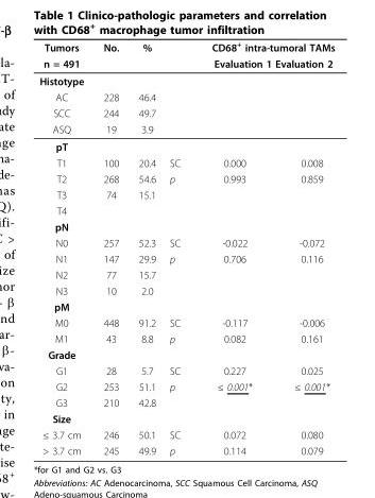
<table><thead><tr><td rowspan="3">Tumors n = 491 Histotype</td><td rowspan="3">No.</td><td rowspan="3">%</td><td rowspan="3"></td><td rowspan="2" colspan="2">CD68+ intra-tumoral TAMs Evaluation 1 Evaluation 2</td></tr><tr></tr><tr><td></td><td></td></tr></thead><tbody><tr><td>AC</td><td>228</td><td>46.4</td><td></td><td></td><td></td></tr><tr><td>SCC</td><td>244</td><td>49.7</td><td></td><td></td><td></td></tr><tr><td>ASQ</td><td>19</td><td>3.9</td><td></td><td></td><td></td></tr><tr><td colspan="6">pT</td></tr><tr><td>T1</td><td>100</td><td>20.4</td><td>SC</td><td>0.000</td><td>0.008</td></tr><tr><td>T2</td><td>268</td><td>54.6</td><td>p</td><td>0.993</td><td>0.859</td></tr><tr><td>T3</td><td>74</td><td>15.1</td><td></td><td></td><td></td></tr><tr><td colspan="6">T4</td></tr><tr><td colspan="6">pN</td></tr><tr><td>N0</td><td>257</td><td>52.3</td><td>SC</td><td>-0.022</td><td>-0.072</td></tr><tr><td>N1</td><td>147</td><td>29.9</td><td>p</td><td>0.706</td><td>0.116</td></tr><tr><td>N2</td><td>77</td><td>15.7</td><td></td><td></td><td></td></tr><tr><td>N3</td><td>10</td><td>2.0</td><td></td><td></td><td></td></tr><tr><td colspan="6">pM</td></tr><tr><td>M0</td><td>448</td><td>91.2</td><td>SC</td><td>-0.117</td><td>-0.006</td></tr><tr><td>M1</td><td>43</td><td>8.8</td><td>p</td><td>0.082</td><td>0.161</td></tr><tr><td colspan="6">Grade</td></tr><tr><td>G1</td><td>28</td><td>5.7</td><td>SC</td><td>0.227</td><td>0.025</td></tr><tr><td>G2</td><td>253</td><td>51.1</td><td>p</td><td>≤ 0.001*</td><td>≤ 0.001*</td></tr><tr><td>G3</td><td>210</td><td>42.8</td><td></td><td></td><td></td></tr><tr><td colspan="6">Size</td></tr><tr><td>≤ 3.7 cm</td><td>246</td><td>50.1</td><td>SC</td><td>0.072</td><td>0.080</td></tr><tr><td>&gt; 3.7 cm</td><td>245</td><td>49.9</td><td>p</td><td>0.114</td><td>0.079</td></tr></tbody></table>